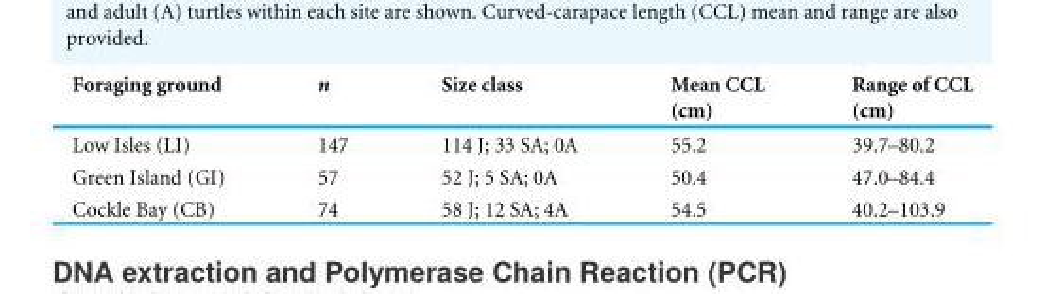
<table><thead><tr><td>Foraging ground</td><td>n</td><td>Size class</td><td>Mean CCL (cm)</td><td>Range of CCL (cm)</td></tr></thead><tbody><tr><td>Low Isles (LI)</td><td>147</td><td>114 J; 33 SA; 0A</td><td>55.2</td><td>39.7–80.2</td></tr><tr><td>Green Island (GI)</td><td>57</td><td>52 J; 5 SA; 0A</td><td>50.4</td><td>47.0–84.4</td></tr><tr><td>Cockle Bay (CB)</td><td>74</td><td>58 J; 12 SA; 4A</td><td>54.5</td><td>40.2–103.9</td></tr></tbody></table>